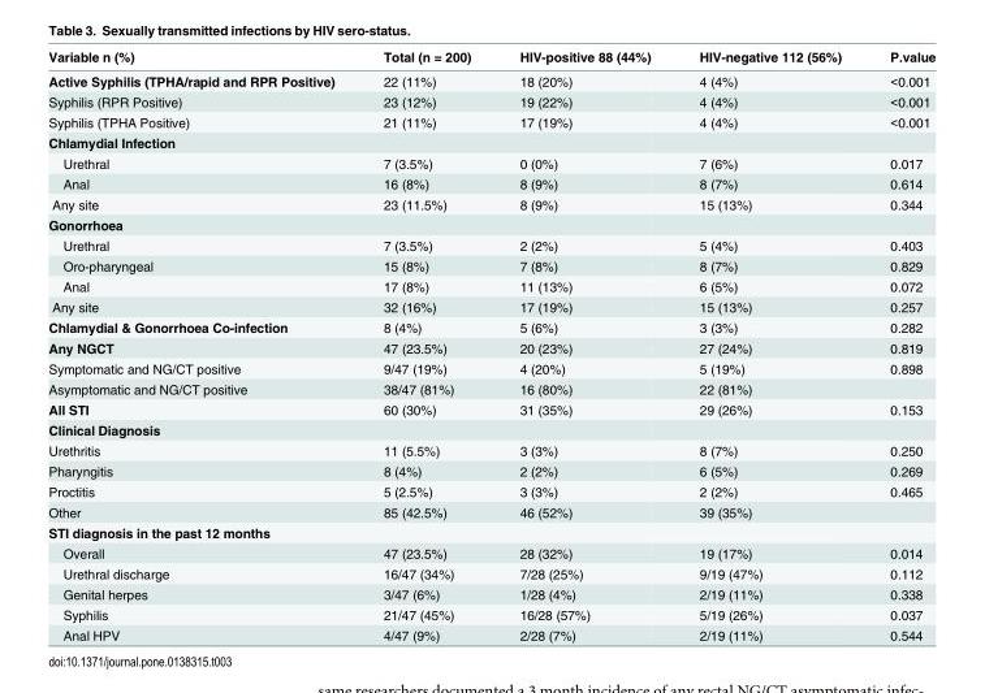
<table><thead><tr><td>Variable n (%)</td><td>Total (n = 200)</td><td>HIV-positive 88 (44%)</td><td>HIV-negative 112 (56%)</td><td>P.value</td></tr></thead><tbody><tr><td>Active Syphilis (TPHA/rapid and RPR Positive)</td><td>22 (11%)</td><td>18 (20%)</td><td>4 (4%)</td><td>&lt;0.001</td></tr><tr><td>Syphilis (RPR Positive)</td><td>23 (12%)</td><td>19 (22%)</td><td>4 (4%)</td><td>&lt;0.001</td></tr><tr><td>Syphilis (TPHA Positive)</td><td>21 (11%)</td><td>17 (19%)</td><td>4 (4%)</td><td>&lt;0.001</td></tr><tr><td colspan="5">Chlamydial Infection</td></tr><tr><td>Urethral</td><td>7 (3.5%)</td><td>0 (0%)</td><td>7 (6%)</td><td>0.017</td></tr><tr><td>Anal</td><td>16 (8%)</td><td>8 (9%)</td><td>8 (7%)</td><td>0.614</td></tr><tr><td>Any site</td><td>23 (11.5%)</td><td>8 (9%)</td><td>15 (13%)</td><td>0.344</td></tr><tr><td colspan="5">Gonorrhoea</td></tr><tr><td>Urethral</td><td>7 (3.5%)</td><td>2 (2%)</td><td>5 (4%)</td><td>0.403</td></tr><tr><td>Oro-pharyngeal</td><td>15 (8%)</td><td>7 (8%)</td><td>8 (7%)</td><td>0.829</td></tr><tr><td>Anal</td><td>17 (8%)</td><td>11 (13%)</td><td>6 (5%)</td><td>0.072</td></tr><tr><td>Any site</td><td>32 (16%)</td><td>17 (19%)</td><td>15 (13%)</td><td>0.257</td></tr><tr><td>Chlamydial &amp; Gonorrhoea Co-infection</td><td>8 (4%)</td><td>5 (6%)</td><td>3 (3%)</td><td>0.282</td></tr><tr><td>Any NGCT</td><td>47 (23.5%)</td><td>20 (23%)</td><td>27 (24%)</td><td>0.819</td></tr><tr><td>Symptomatic and NG/CT positive</td><td>9/47 (19%)</td><td>4 (20%)</td><td>5 (19%)</td><td>0.898</td></tr><tr><td>Asymptomatic and NG/CT positive</td><td>38/47 (81%)</td><td>16 (80%)</td><td>22 (81%)</td><td></td></tr><tr><td>All STI</td><td>60 (30%)</td><td>31 (35%)</td><td>29 (26%)</td><td>0.153</td></tr><tr><td colspan="5">Clinical Diagnosis</td></tr><tr><td>Urethritis</td><td>11 (5.5%)</td><td>3 (3%)</td><td>8 (7%)</td><td>0.250</td></tr><tr><td>Pharyngitis</td><td>8 (4%)</td><td>2 (2%)</td><td>6 (5%)</td><td>0.269</td></tr><tr><td>Proctitis</td><td>5 (2.5%)</td><td>3 (3%)</td><td>2 (2%)</td><td>0.465</td></tr><tr><td>Other</td><td>85 (42.5%)</td><td>46 (52%)</td><td>39 (35%)</td><td></td></tr><tr><td colspan="5">STI diagnosis in the past 12 months</td></tr><tr><td>Overall</td><td>47 (23.5%)</td><td>28 (32%)</td><td>19 (17%)</td><td>0.014</td></tr><tr><td>Urethral discharge</td><td>16/47 (34%)</td><td>7/28 (25%)</td><td>9/19 (47%)</td><td>0.112</td></tr><tr><td>Genital herpes</td><td>3/47 (6%)</td><td>1/28 (4%)</td><td>2/19 (11%)</td><td>0.338</td></tr><tr><td>Syphilis</td><td>21/47 (45%)</td><td>16/28 (57%)</td><td>5/19 (26%)</td><td>0.037</td></tr><tr><td>Anal HPV</td><td>4/47 (9%)</td><td>2/28 (7%)</td><td>2/19 (11%)</td><td>0.544</td></tr></tbody></table>